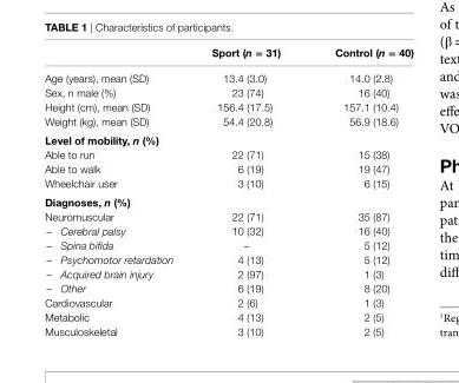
<table><thead><tr><td></td><td>Sport (n = 31)</td><td>Control (n = 40)</td></tr></thead><tbody><tr><td>Age (years), mean (SD)</td><td>13.4 (3.0)</td><td>14.0 (2.8)</td></tr><tr><td>Sex, n male (%)</td><td>23 (74)</td><td>16 (40)</td></tr><tr><td>Height (cm), mean (SD)</td><td>156.4 (17.5)</td><td>157.1 (10.4)</td></tr><tr><td>Weight (kg), mean (SD)</td><td>54.4 (20.8)</td><td>56.9 (18.6)</td></tr><tr><td colspan="3">level of mobility, n (%)</td></tr><tr><td>Able to run</td><td>22 (71)</td><td>15 (38)</td></tr><tr><td>Able to walk</td><td>6 (19)</td><td>19 (47)</td></tr><tr><td>Wheelchair user</td><td>3 (10)</td><td>6 (15)</td></tr><tr><td colspan="3">Diagnoses, n (%)</td></tr><tr><td>Neuromuscular</td><td>22 (71)</td><td>35 (87)</td></tr><tr><td>– Cerebral palsy</td><td>10 (32)</td><td>16 (40)</td></tr><tr><td>– Spina bifida</td><td>–</td><td>5 (12)</td></tr><tr><td>– Psychomotor retardation</td><td>4 (13)</td><td>5 (12)</td></tr><tr><td>– Acquired brain injury</td><td>2 (97)</td><td>1 (3)</td></tr><tr><td>– Other</td><td>6 (19)</td><td>8 (20)</td></tr><tr><td>Cardiovascular</td><td>2 (6)</td><td>1 (3)</td></tr><tr><td>Metabolic</td><td>4 (13)</td><td>2 (5)</td></tr><tr><td>Musculoskeletal</td><td>3 (10)</td><td>2 (5)</td></tr></tbody></table>